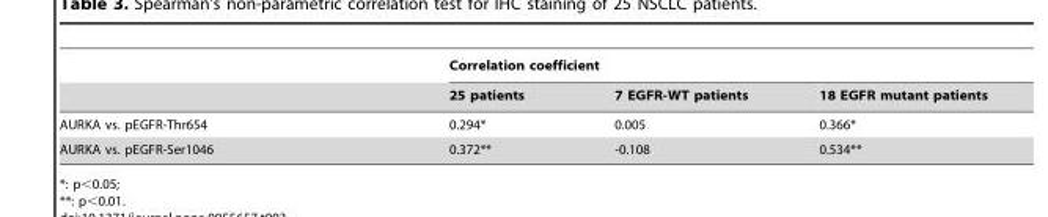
<table><thead><tr><td rowspan="2"></td><td colspan="3">Correlation coefficient</td></tr><tr><td>25 patients</td><td>7 EGFR-WT patients</td><td>18 EGFR mutant patients</td></tr></thead><tbody><tr><td>AURKA vs. pEGFR-Thr654</td><td>0.294*</td><td>0.005</td><td>0.366*</td></tr><tr><td>AURKA vs. pEGFR-Ser1046</td><td>0.372**</td><td>-0.108</td><td>0.534**</td></tr></tbody></table>